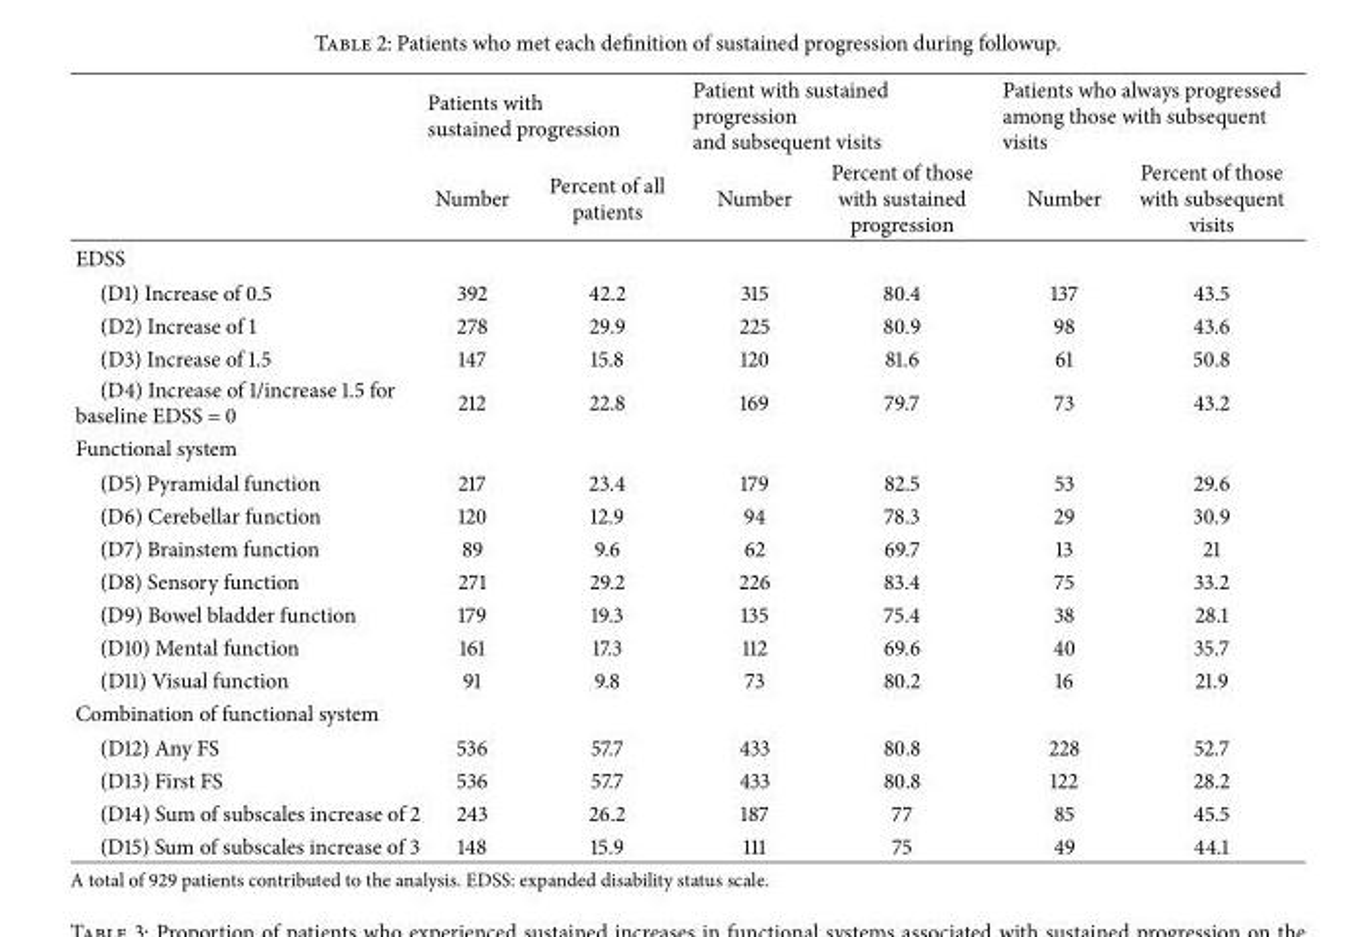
<table><thead><tr><td rowspan="2"></td><td colspan="2">Patients with sustained progression</td><td colspan="2">Patient with sustained progression and subsequent visits</td><td colspan="2">Patients who always progressed among those with subsequent visits</td></tr><tr><td>Number</td><td>Percent of all patients</td><td>Number</td><td>Percent of those with sustained progression</td><td>Number</td><td>Percent of those with subsequent visits</td></tr></thead><tbody><tr><td colspan="7">EDSS</td></tr><tr><td>(D1) Increase of 0.5</td><td>392</td><td>42.2</td><td>315</td><td>80.4</td><td>137</td><td>43.5</td></tr><tr><td>(D2) Increase of 1</td><td>278</td><td>29.9</td><td>225</td><td>80.9</td><td>98</td><td>43.6</td></tr><tr><td>(D3) Increase of 1.5</td><td>147</td><td>15.8</td><td>120</td><td>81.6</td><td>61</td><td>50.8</td></tr><tr><td>(D4) Increase of 1/increase 1.5 for baseline EDSS = 0</td><td>212</td><td>22.8</td><td>169</td><td>79.7</td><td>73</td><td>43.2</td></tr><tr><td colspan="7">Functional system</td></tr><tr><td>(D5) Pyramidal function</td><td>217</td><td>23.4</td><td>179</td><td>82.5</td><td>53</td><td>29.6</td></tr><tr><td>(D6) Cerebellar function</td><td>120</td><td>12.9</td><td>94</td><td>78.3</td><td>29</td><td>30.9</td></tr><tr><td>(D7) Brainstem function</td><td>89</td><td>9.6</td><td>62</td><td>69.7</td><td>13</td><td>21</td></tr><tr><td>(D8) Sensory function</td><td>271</td><td>29.2</td><td>226</td><td>83.4</td><td>75</td><td>33.2</td></tr><tr><td>(D9) Bowel bladder function</td><td>179</td><td>19.3</td><td>135</td><td>75.4</td><td>38</td><td>28.1</td></tr><tr><td>(D10) Mental function</td><td>161</td><td>17.3</td><td>112</td><td>69.6</td><td>40</td><td>35.7</td></tr><tr><td>(D11) Visual function</td><td>91</td><td>9.8</td><td>73</td><td>80.2</td><td>16</td><td>21.9</td></tr><tr><td colspan="7">Combination of functional system</td></tr><tr><td>(D12) Any FS</td><td>536</td><td>57.7</td><td>433</td><td>80.8</td><td>228</td><td>52.7</td></tr><tr><td>(D13) First FS</td><td>536</td><td>57.7</td><td>433</td><td>80.8</td><td>122</td><td>28.2</td></tr><tr><td>(D14) Sum of subscales increase of 2</td><td>243</td><td>26.2</td><td>187</td><td>77</td><td>85</td><td>45.5</td></tr><tr><td>(D15) Sum of subscales increase of 3</td><td>148</td><td>15.9</td><td>111</td><td>75</td><td>49</td><td>44.1</td></tr></tbody></table>